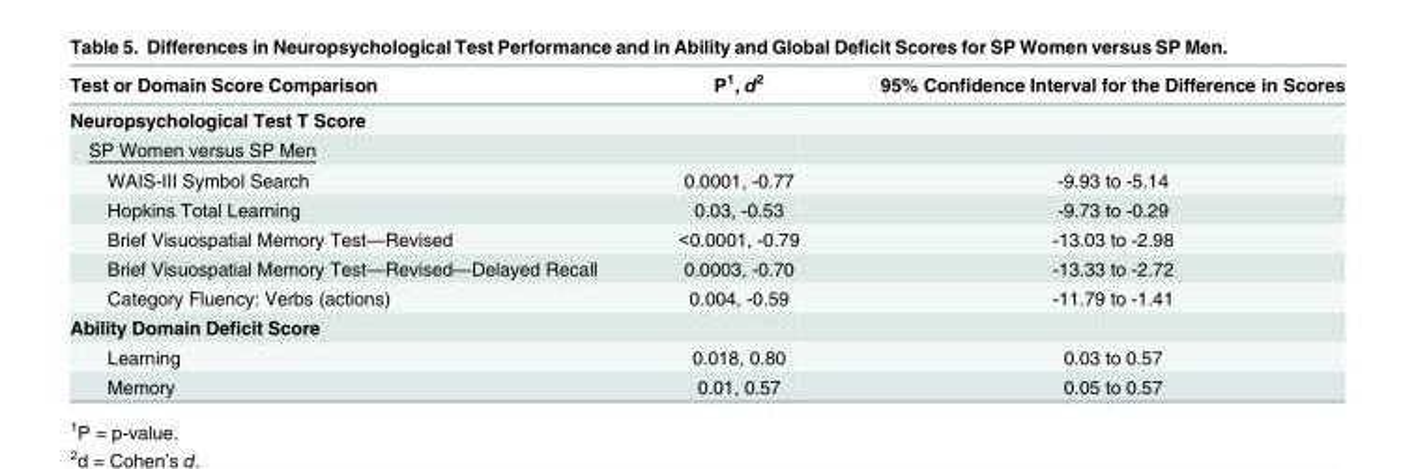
<table><thead><tr><td>Test or Domain Score Comparison</td><td>P<sup>1</sup>, d<sup>2</sup></td><td>95% Confidence Interval for the Difference in Scores</td></tr></thead><tbody><tr><td colspan="3">Neuropsychological Test T Score</td></tr><tr><td colspan="3">SP Women versus SP Men</td></tr><tr><td>WAIS-III Symbol Search</td><td>0.0001, -0.77</td><td>-9.93 to -5.14</td></tr><tr><td>Hopkins Total Learning</td><td>0.03, -0.53</td><td>-9.73 to -0.29</td></tr><tr><td>Brief Visuospatial Memory Test—Revised</td><td>&lt;0.0001, -0.79</td><td>-13.03 to -2.98</td></tr><tr><td>Brief Visuospatial Memory Test—Revised—Delayed Recall</td><td>0.0003, -0.70</td><td>-13.33 to -2.72</td></tr><tr><td>Category Fluency: Verbs (actions)</td><td>0.004, -0.59</td><td>-11.79 to -1.41</td></tr><tr><td colspan="3">Ability Domain Deficit Score</td></tr><tr><td>Learning</td><td>0.018, 0.80</td><td>0.03 to 0.57</td></tr><tr><td>Memory</td><td>0.01, 0.57</td><td>0.05 to 0.57</td></tr></tbody></table>